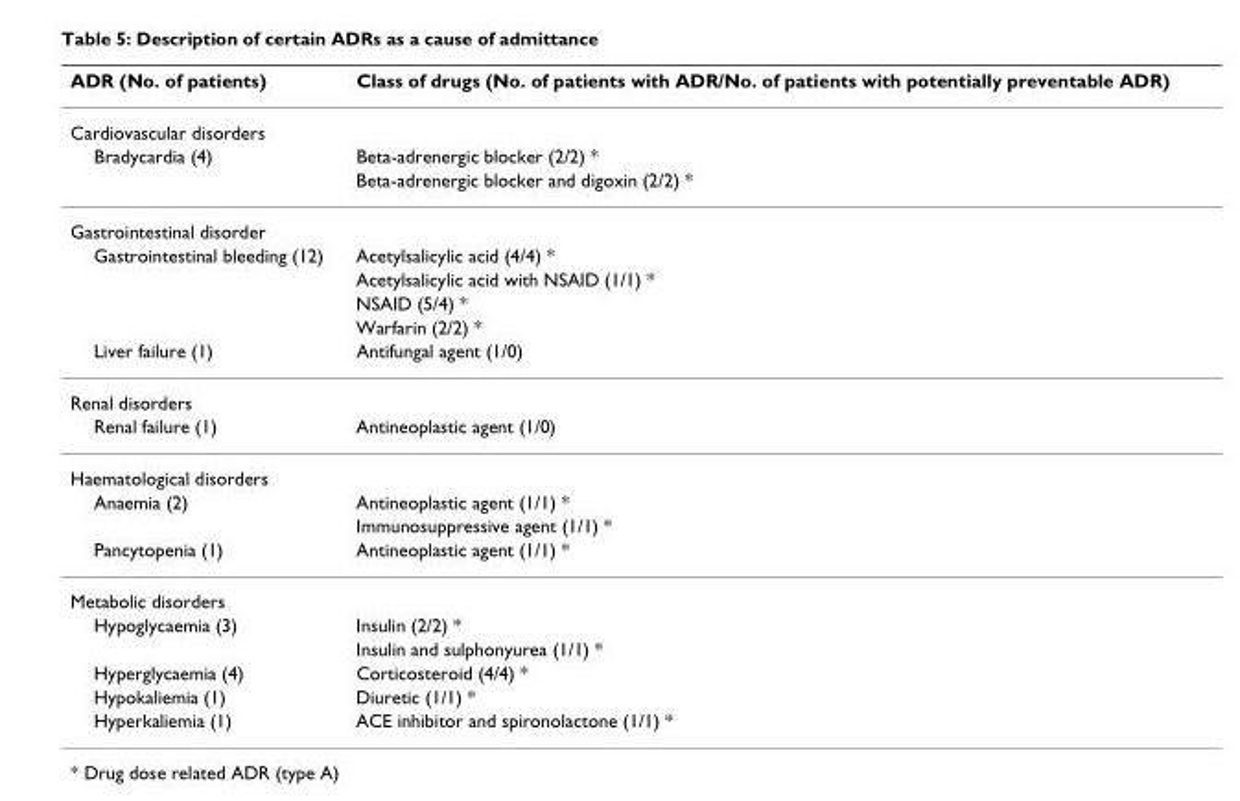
<table><thead><tr><td>ADR (No. of patients)</td><td>Class of drugs (No. of patients with ADR/No. of patients with potentially preventable ADR)</td></tr></thead><tbody><tr><td colspan="2">Cardiovascular disorders</td></tr><tr><td rowspan="2">Bradycardia (4)</td><td>Beta-adrenergic blocker (2/2) *</td></tr><tr><td>Beta-adrenergic blocker and digoxin (2/2) *</td></tr><tr><td colspan="2">Gastrointestinal disorder</td></tr><tr><td rowspan="4">Gastrointestinal bleeding (12)</td><td>Acetylsalicylic acid (4/4) *</td></tr><tr><td>Acetylsalicylic acid with NSAID (1/1) *</td></tr><tr><td>NSAID (5/4) *</td></tr><tr><td>Warfarin (2/2) *</td></tr><tr><td>Liver failure (1)</td><td>Antifungal agent (1/0)</td></tr><tr><td colspan="2">Renal disorders</td></tr><tr><td>Renal failure (1)</td><td>Antineoplastic agent (1/0)</td></tr><tr><td colspan="2">Haematological disorders</td></tr><tr><td rowspan="2">Anaemia (2)</td><td>Antineoplastic agent (1/1) *</td></tr><tr><td>Immunosuppressive agent (1/1) *</td></tr><tr><td>Pancytopenia (1)</td><td>Antineoplastic agent (1/1) *</td></tr><tr><td colspan="2">Metabolic disorders</td></tr><tr><td rowspan="2">Hypoglycaemia (3)</td><td>Insulin (2/2) *</td></tr><tr><td>Insulin and sulphonyurea (1/1) *</td></tr><tr><td>Hyperglycaemia (4)</td><td>Corticosteroid (4/4) *</td></tr><tr><td>Hypokaliemia (1)</td><td>Diuretic (1/1) *</td></tr><tr><td>Hyperkaliemia (1)</td><td>ACE inhibitor and spironolactone (1/1) *</td></tr></tbody></table>